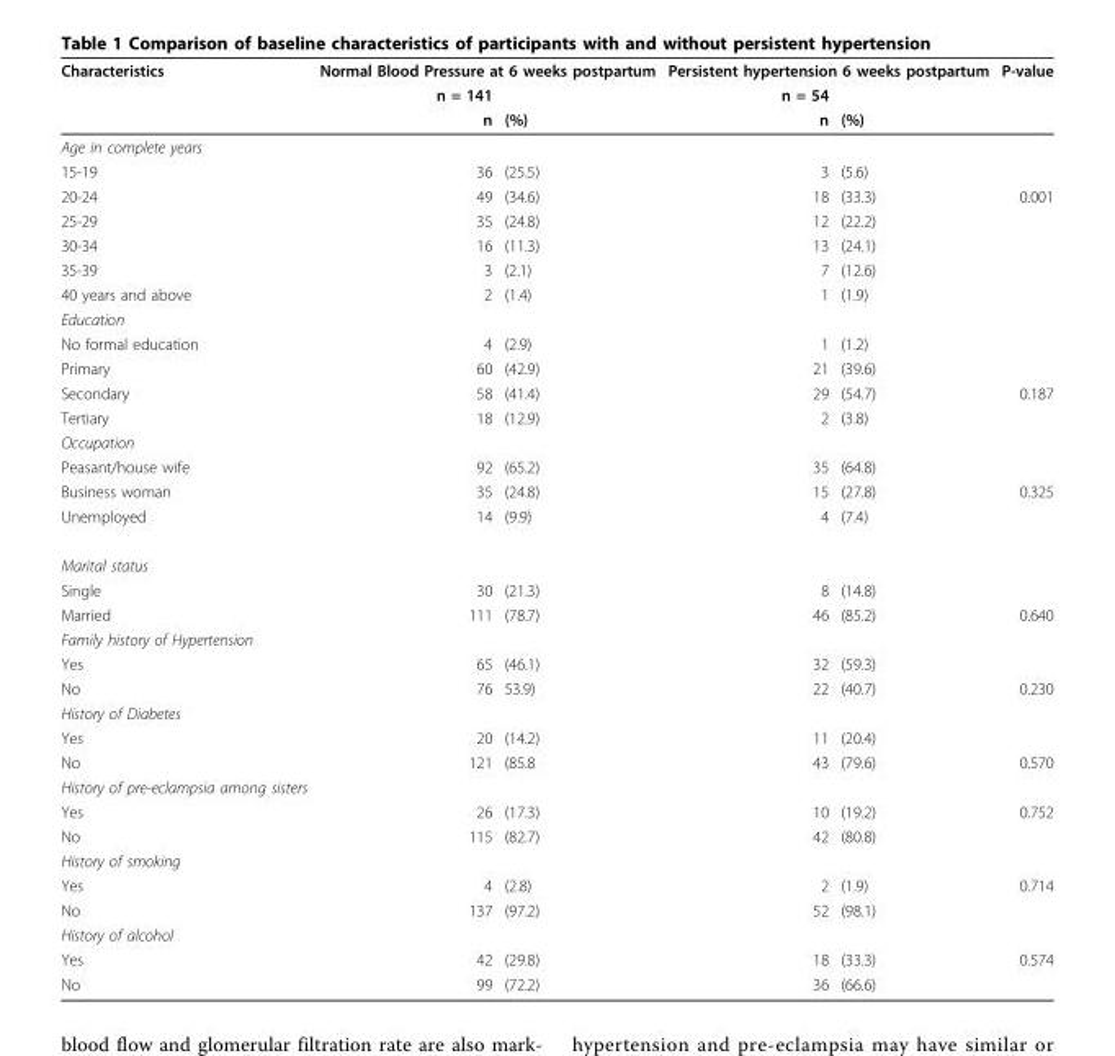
<table><thead><tr><td rowspan="3">Characteristics</td><td colspan="2">Normal Blood Pressure at 6 weeks postpartum</td><td colspan="2">Persistent hypertension 6 weeks postpartum</td><td rowspan="3">P-value</td></tr><tr><td rowspan="2">n = 141 n</td><td rowspan="2">(%)</td><td rowspan="2">n = 54 n</td><td rowspan="2">(%)</td></tr><tr></tr></thead><tbody><tr><td colspan="6">Age in complete years</td></tr><tr><td>15-19</td><td>36</td><td>(25.5)</td><td>3</td><td>(5.6)</td><td></td></tr><tr><td>20-24</td><td>49</td><td>(34.6)</td><td>18</td><td>(33.3)</td><td>0.001</td></tr><tr><td>25-29</td><td>35</td><td>(24.8)</td><td>12</td><td>(22.2)</td><td></td></tr><tr><td>30-34</td><td>16</td><td>(11.3)</td><td>13</td><td>(24.1)</td><td></td></tr><tr><td>35-39</td><td>3</td><td>(2.1)</td><td>7</td><td>(12.6)</td><td></td></tr><tr><td>40 years and above</td><td>2</td><td>(1.4)</td><td>1</td><td>(1.9)</td><td></td></tr><tr><td colspan="6">Education</td></tr><tr><td>No formal education</td><td>4</td><td>(2.9)</td><td>1</td><td>(1.2)</td><td></td></tr><tr><td>Primary</td><td>60</td><td>(42.9)</td><td>21</td><td>(39.6)</td><td></td></tr><tr><td>Secondary</td><td>58</td><td>(41.4)</td><td>29</td><td>(54.7)</td><td>0.187</td></tr><tr><td>Tertiary</td><td>18</td><td>(12.9)</td><td>2</td><td>(3.8)</td><td></td></tr><tr><td colspan="6">Occupation</td></tr><tr><td>Peasant/house wife</td><td>92</td><td>(65.2)</td><td>35</td><td>(64.8)</td><td></td></tr><tr><td>Business woman</td><td>35</td><td>(24.8)</td><td>15</td><td>(27.8)</td><td>0.325</td></tr><tr><td>Unemployed</td><td>14</td><td>(9.9)</td><td>4</td><td>(7.4)</td><td></td></tr><tr><td colspan="6">Marital status</td></tr><tr><td>Single</td><td>30</td><td>(21.3)</td><td>8</td><td>(14.8)</td><td></td></tr><tr><td>Married</td><td>111</td><td>(78.7)</td><td>46</td><td>(85.2)</td><td>0.640</td></tr><tr><td colspan="6">Family history of Hypertension</td></tr><tr><td>Yes</td><td>65</td><td>(46.1)</td><td>32</td><td>(59.3)</td><td></td></tr><tr><td>No</td><td>76</td><td>53.9)</td><td>22</td><td>(40.7)</td><td>0.230</td></tr><tr><td colspan="6">History of Diabetes</td></tr><tr><td>Yes</td><td>20</td><td>(14.2)</td><td>11</td><td>(20.4)</td><td></td></tr><tr><td>No</td><td>121</td><td>(85.8</td><td>43</td><td>(79.6)</td><td>0.570</td></tr><tr><td colspan="6">History of pre-eclampsia among sisters</td></tr><tr><td>Yes</td><td>26</td><td>(17.3)</td><td>10</td><td>(19.2)</td><td>0.752</td></tr><tr><td>No</td><td>115</td><td>(82.7)</td><td>42</td><td>(80.8)</td><td></td></tr><tr><td colspan="6">History of smoking</td></tr><tr><td>Yes</td><td>4</td><td>(2.8)</td><td>2</td><td>(1.9)</td><td>0.714</td></tr><tr><td>No</td><td>137</td><td>(97.2)</td><td>52</td><td>(98.1)</td><td></td></tr><tr><td colspan="6">History of alcohol</td></tr><tr><td>Yes</td><td>42</td><td>(29.8)</td><td>18</td><td>(33.3)</td><td>0.574</td></tr><tr><td>No</td><td>99</td><td>(72.2)</td><td>36</td><td>(66.6)</td><td></td></tr></tbody></table>